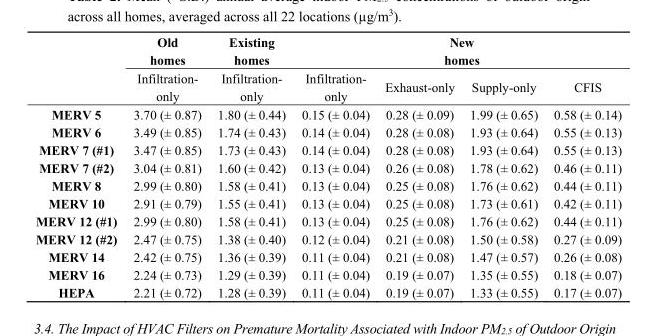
<table><thead><tr><td rowspan="2"></td><td rowspan="2">Old homes Infiltration- only</td><td rowspan="2">Existing homes Infiltration- only</td><td colspan="4">New homes</td></tr><tr><td>Infiltration- only</td><td>Exhaust-only</td><td>Supply-only</td><td>CFIS</td></tr></thead><tbody><tr><td>MERV 5</td><td>3.70 (± 0.87)</td><td>1.80 (± 0.44)</td><td>0.15 (± 0.04)</td><td>0.28 (± 0.09)</td><td>1.99 (± 0.65)</td><td>0.58 (± 0.14)</td></tr><tr><td>MERV 6</td><td>3.49 (± 0.85)</td><td>1.74 (± 0.43)</td><td>0.14 (± 0.04)</td><td>0.28 (± 0.08)</td><td>1.93 (± 0.64)</td><td>0.55 (± 0.13)</td></tr><tr><td>MERV 7 (#1)</td><td>3.47 (± 0.85)</td><td>1.73 (± 0.43)</td><td>0.14 (± 0.04)</td><td>0.28 (± 0.08)</td><td>1.93 (± 0.64)</td><td>0.55 (± 0.13)</td></tr><tr><td>MERV 7 (#2)</td><td>3.04 (± 0.81)</td><td>1.60 (± 0.42)</td><td>0.13 (± 0.04)</td><td>0.26 (± 0.08)</td><td>1.78 (± 0.62)</td><td>0.46 (± 0.11)</td></tr><tr><td>MERV 8</td><td>2.99 (± 0.80)</td><td>1.58 (± 0.41)</td><td>0.13 (± 0.04)</td><td>0.25 (± 0.08)</td><td>1.76 (± 0.62)</td><td>0.44 (± 0.11)</td></tr><tr><td>MERV 10</td><td>2.91 (± 0.79)</td><td>1.55 (± 0.41)</td><td>0.13 (± 0.04)</td><td>0.25 (± 0.08)</td><td>1.73 (± 0.61)</td><td>0.42 (± 0.11)</td></tr><tr><td>MERV 12 (#1)</td><td>2.99 (± 0.80)</td><td>1.58 (± 0.41)</td><td>0.13 (± 0.04)</td><td>0.25 (± 0.08)</td><td>1.76 (± 0.62)</td><td>0.44 (± 0.11)</td></tr><tr><td>MERV 12 (#2)</td><td>2.47 (± 0.75)</td><td>1.38 (± 0.40)</td><td>0.12 (± 0.04)</td><td>0.21 (± 0.08)</td><td>1.50 (± 0.58)</td><td>0.27 (± 0.09)</td></tr><tr><td>MERV 14</td><td>2.42 (± 0.75)</td><td>1.36 (± 0.39)</td><td>0.11 (± 0.04)</td><td>0.21 (± 0.08)</td><td>1.47 (± 0.57)</td><td>0.26 (± 0.08)</td></tr><tr><td>MERV 16</td><td>2.24 (± 0.73)</td><td>1.29 (± 0.39)</td><td>0.11 (± 0.04)</td><td>0.19 (± 0.07)</td><td>1.35 (± 0.55)</td><td>0.18 (± 0.07)</td></tr><tr><td>HEPA</td><td>2.21 (± 0.72)</td><td>1.28 (± 0.39)</td><td>0.11 (± 0.04)</td><td>0.19 (± 0.07)</td><td>1.33 (± 0.55)</td><td>0.17 (± 0.07)</td></tr></tbody></table>